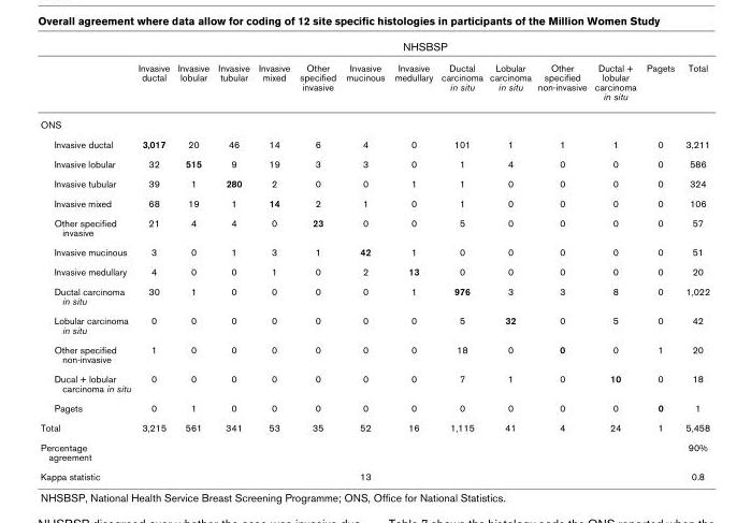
<table><thead><tr><td rowspan="2"></td><td colspan="13">NHSBSP</td></tr><tr><td>Invasive ductal</td><td>Invasive lobular</td><td>Invasive tubular</td><td>Invasive mixed</td><td>Other specified invasive</td><td>Invasive mucinous</td><td>Invasive medullary</td><td>Ductal carcinoma in situ</td><td>Lobular carcinoma in situ</td><td>Other specified non-invasive</td><td>Ductal + lobular carcinoma in situ</td><td>Pagets</td><td>Total</td></tr></thead><tbody><tr><td colspan="14">ONS</td></tr><tr><td>Invasive ductal</td><td>3,017</td><td>20</td><td>46</td><td>14</td><td>6</td><td>4</td><td>0</td><td>101</td><td>1</td><td>1</td><td>1</td><td>0</td><td>3,211</td></tr><tr><td>Invasive lobular</td><td>32</td><td>515</td><td>9</td><td>19</td><td>3</td><td>3</td><td>0</td><td>1</td><td>4</td><td>0</td><td>0</td><td>0</td><td>586</td></tr><tr><td>Invasive tubular</td><td>39</td><td>1</td><td>280</td><td>2</td><td>0</td><td>0</td><td>1</td><td>1</td><td>0</td><td>0</td><td>0</td><td>0</td><td>324</td></tr><tr><td>Invasive mixed</td><td>68</td><td>19</td><td>1</td><td>14</td><td>2</td><td>1</td><td>0</td><td>1</td><td>0</td><td>0</td><td>0</td><td>0</td><td>106</td></tr><tr><td>Other specified invasive</td><td>21</td><td>4</td><td>4</td><td>0</td><td>23</td><td>0</td><td>0</td><td>5</td><td>0</td><td>0</td><td>0</td><td>0</td><td>57</td></tr><tr><td>Invasive mucinous</td><td>3</td><td>0</td><td>1</td><td>3</td><td>1</td><td>42</td><td>1</td><td>0</td><td>0</td><td>0</td><td>0</td><td>0</td><td>51</td></tr><tr><td>Invasive medullary</td><td>4</td><td>0</td><td>0</td><td>1</td><td>0</td><td>2</td><td>13</td><td>0</td><td>0</td><td>0</td><td>0</td><td>0</td><td>20</td></tr><tr><td>Ductal carcinoma in situ</td><td>30</td><td>1</td><td>0</td><td>0</td><td>0</td><td>0</td><td>1</td><td>976</td><td>3</td><td>3</td><td>8</td><td>0</td><td>1,022</td></tr><tr><td>Lobular carcinoma in situ</td><td>0</td><td>0</td><td>0</td><td>0</td><td>0</td><td>0</td><td>0</td><td>5</td><td>32</td><td>0</td><td>5</td><td>0</td><td>42</td></tr><tr><td>Other specified non-invasive</td><td>1</td><td>0</td><td>0</td><td>0</td><td>0</td><td>0</td><td>0</td><td>18</td><td>0</td><td>0</td><td>0</td><td>1</td><td>20</td></tr><tr><td>Ducal + lobular carcinoma in situ</td><td>0</td><td>0</td><td>0</td><td>0</td><td>0</td><td>0</td><td>0</td><td>7</td><td>1</td><td>0</td><td>10</td><td>0</td><td>18</td></tr><tr><td>Pagets</td><td>0</td><td>1</td><td>0</td><td>0</td><td>0</td><td>0</td><td>0</td><td>0</td><td>0</td><td>0</td><td>0</td><td>0</td><td>1</td></tr><tr><td>Total</td><td>3,215</td><td>561</td><td>341</td><td>53</td><td>35</td><td>52</td><td>16</td><td>1,115</td><td>41</td><td>4</td><td>24</td><td>1</td><td>5,458</td></tr><tr><td>Percentage agreement</td><td></td><td></td><td></td><td></td><td></td><td></td><td></td><td></td><td></td><td></td><td></td><td></td><td>90%</td></tr><tr><td>Kappa statistic</td><td></td><td></td><td></td><td></td><td></td><td>13</td><td></td><td></td><td></td><td></td><td></td><td></td><td>0.8</td></tr></tbody></table>